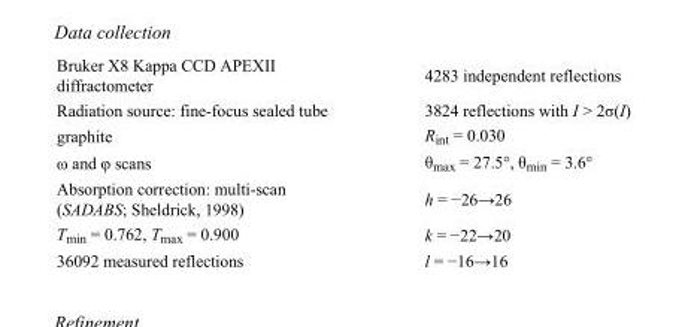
<table><tbody><tr><td>Bruker X8 Kappa CCD APEXII diffractometer</td><td>4283 independent reflections</td></tr><tr><td>Radiation source: fine-focus sealed tube</td><td>3824 reflections with I &gt; 2σ(I)</td></tr><tr><td>graphite</td><td>R<sub>int</sub> = 0.030</td></tr><tr><td>ω and φ scans</td><td>θ<sub>max</sub> = 27.5°, θ<sub>min</sub> = 3.6°</td></tr><tr><td>Absorption correction: multi-scan (SADABS; Sheldrick, 1998)</td><td>h = −26→26</td></tr><tr><td>T<sub>min</sub> = 0.762, T<sub>max</sub> = 0.900</td><td>k = −22→20</td></tr><tr><td>36092 measured reflections</td><td>l = −16→16</td></tr></tbody></table>